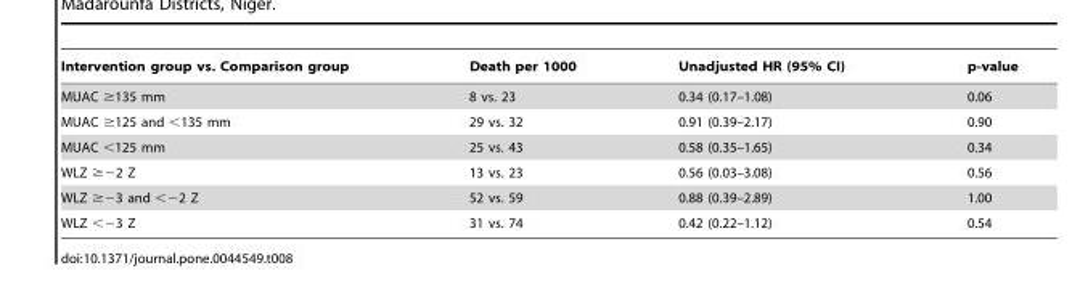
<table><thead><tr><td>Intervention group vs. Comparison group</td><td>Death per 1000</td><td>Unadjusted HR (95% CI)</td><td>p-value</td></tr></thead><tbody><tr><td>MUAC ≥135 mm</td><td>8 vs. 23</td><td>0.34 (0.17–1.08)</td><td>0.06</td></tr><tr><td>MUAC ≥125 and &lt;135 mm</td><td>29 vs. 32</td><td>0.91 (0.39–2.17)</td><td>0.90</td></tr><tr><td>MUAC &lt;125 mm</td><td>25 vs. 43</td><td>0.58 (0.35–1.65)</td><td>0.34</td></tr><tr><td>WLZ ≥−2 Z</td><td>13 vs. 23</td><td>0.56 (0.03–3.08)</td><td>0.56</td></tr><tr><td>WLZ ≥−3 and &lt;−2 Z</td><td>52 vs. 59</td><td>0.88 (0.39–2.89)</td><td>1.00</td></tr><tr><td>WLZ &lt;−3 Z</td><td>31 vs. 74</td><td>0.42 (0.22–1.12)</td><td>0.54</td></tr></tbody></table>